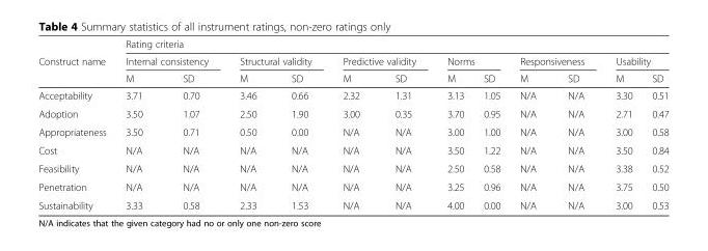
<table><thead><tr><td rowspan="3">Construct name</td><td colspan="12">Rating criteria</td></tr><tr><td colspan="2">Internal consistency</td><td colspan="2">Structural validity</td><td colspan="2">Predictive validity</td><td colspan="2">Norms</td><td colspan="2">Responsiveness</td><td colspan="2">Usability</td></tr><tr><td>M</td><td>SD</td><td>M</td><td>SD</td><td>M</td><td>SD</td><td>M</td><td>SD</td><td>M</td><td>SD</td><td>M</td><td>SD</td></tr></thead><tbody><tr><td>Acceptability</td><td>3.71</td><td>0.70</td><td>3.46</td><td>0.66</td><td>2.32</td><td>1.31</td><td>3.13</td><td>1.05</td><td>N/A</td><td>N/A</td><td>3.30</td><td>0.51</td></tr><tr><td>Adoption</td><td>3.50</td><td>1.07</td><td>2.50</td><td>1.90</td><td>3.00</td><td>0.35</td><td>3.70</td><td>0.95</td><td>N/A</td><td>N/A</td><td>2.71</td><td>0.47</td></tr><tr><td>Appropriateness</td><td>3.50</td><td>0.71</td><td>0.50</td><td>0.00</td><td>N/A</td><td>N/A</td><td>3.00</td><td>1.00</td><td>N/A</td><td>N/A</td><td>3.00</td><td>0.58</td></tr><tr><td>Cost</td><td>N/A</td><td>N/A</td><td>N/A</td><td>N/A</td><td>N/A</td><td>N/A</td><td>3.50</td><td>1.22</td><td>N/A</td><td>N/A</td><td>3.50</td><td>0.84</td></tr><tr><td>Feasibility</td><td>N/A</td><td>N/A</td><td>N/A</td><td>N/A</td><td>N/A</td><td>N/A</td><td>2.50</td><td>0.58</td><td>N/A</td><td>N/A</td><td>3.38</td><td>0.52</td></tr><tr><td>Penetration</td><td>N/A</td><td>N/A</td><td>N/A</td><td>N/A</td><td>N/A</td><td>N/A</td><td>3.25</td><td>0.96</td><td>N/A</td><td>N/A</td><td>3.75</td><td>0.50</td></tr><tr><td>Sustainability</td><td>3.33</td><td>0.58</td><td>2.33</td><td>1.53</td><td>N/A</td><td>N/A</td><td>4.00</td><td>0.00</td><td>N/A</td><td>N/A</td><td>3.00</td><td>0.53</td></tr></tbody></table>